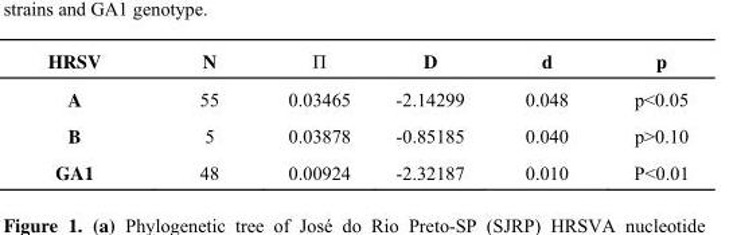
<table><thead><tr><td>HRSV</td><td>N</td><td>Π</td><td>D</td><td>d</td><td>p</td></tr></thead><tbody><tr><td>A</td><td>55</td><td>0.03465</td><td>-2.14299</td><td>0.048</td><td>p&lt;0.05</td></tr><tr><td>B</td><td>5</td><td>0.03878</td><td>-0.85185</td><td>0.040</td><td>p&gt;0.10</td></tr><tr><td>GA1</td><td>48</td><td>0.00924</td><td>-2.32187</td><td>0.010</td><td>P&lt;0.01</td></tr></tbody></table>